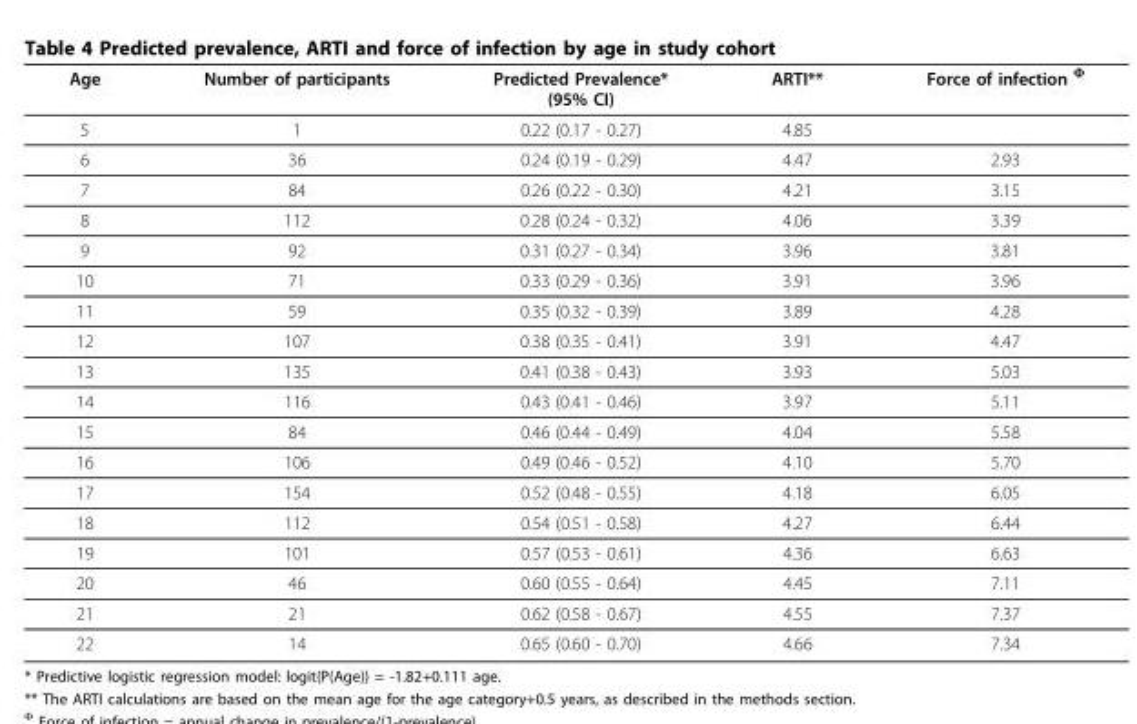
<table><thead><tr><td>Age</td><td>Number of participants</td><td>Predicted Prevalence* (95% CI)</td><td>ARTI**</td><td>Force of infection</td></tr></thead><tbody><tr><td>5</td><td>1</td><td>0.22 (0.17 - 0.27)</td><td>4.85</td><td></td></tr><tr><td>6</td><td>36</td><td>0.24 (0.19 - 0.29)</td><td>4.47</td><td>2.93</td></tr><tr><td>7</td><td>84</td><td>0.26 (0.22 - 0.30)</td><td>4.21</td><td>3.15</td></tr><tr><td>8</td><td>112</td><td>0.28 (0.24 - 0.32)</td><td>4.06</td><td>3.39</td></tr><tr><td>9</td><td>92</td><td>0.31 (0.27 - 0.34)</td><td>3.96</td><td>3.81</td></tr><tr><td>10</td><td>71</td><td>0.33 (0.29 - 0.36)</td><td>3.91</td><td>3.96</td></tr><tr><td>11</td><td>59</td><td>0.35 (0.32 - 0.39)</td><td>3.89</td><td>4.28</td></tr><tr><td>12</td><td>107</td><td>0.38 (0.35 - 0.41)</td><td>3.91</td><td>4.47</td></tr><tr><td>13</td><td>135</td><td>0.41 (0.38 - 0.43)</td><td>3.93</td><td>5.03</td></tr><tr><td>14</td><td>116</td><td>0.43 (0.41 - 0.46)</td><td>3.97</td><td>5.11</td></tr><tr><td>15</td><td>84</td><td>0.46 (0.44 - 0.49)</td><td>4.04</td><td>5.58</td></tr><tr><td>16</td><td>106</td><td>0.49 (0.46 - 0.52)</td><td>4.10</td><td>5.70</td></tr><tr><td>17</td><td>154</td><td>0.52 (0.48 - 0.55)</td><td>4.18</td><td>6.05</td></tr><tr><td>18</td><td>112</td><td>0.54 (0.51 - 0.58)</td><td>4.27</td><td>6.44</td></tr><tr><td>19</td><td>101</td><td>0.57 (0.53 - 0.61)</td><td>4.36</td><td>6.63</td></tr><tr><td>20</td><td>46</td><td>0.60 (0.55 - 0.64)</td><td>4.45</td><td>7.11</td></tr><tr><td>21</td><td>21</td><td>0.62 (0.58 - 0.67)</td><td>4.55</td><td>7.37</td></tr><tr><td>22</td><td>14</td><td>0.65 (0.60 - 0.70)</td><td>4.66</td><td>7.34</td></tr></tbody></table>